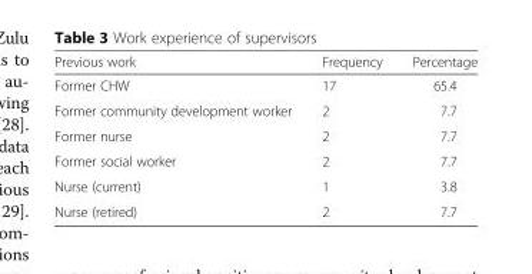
<table><thead><tr><td>Previous work</td><td>Frequency</td><td>Percentage</td></tr></thead><tbody><tr><td>Former CHW</td><td>17</td><td>65.4</td></tr><tr><td>Former community development worker</td><td>2</td><td>7.7</td></tr><tr><td>Former nurse</td><td>2</td><td>7.7</td></tr><tr><td>Former social worker</td><td>2</td><td>7.7</td></tr><tr><td>Nurse (current)</td><td>1</td><td>3.8</td></tr><tr><td>Nurse (retired)</td><td>2</td><td>7.7</td></tr></tbody></table>